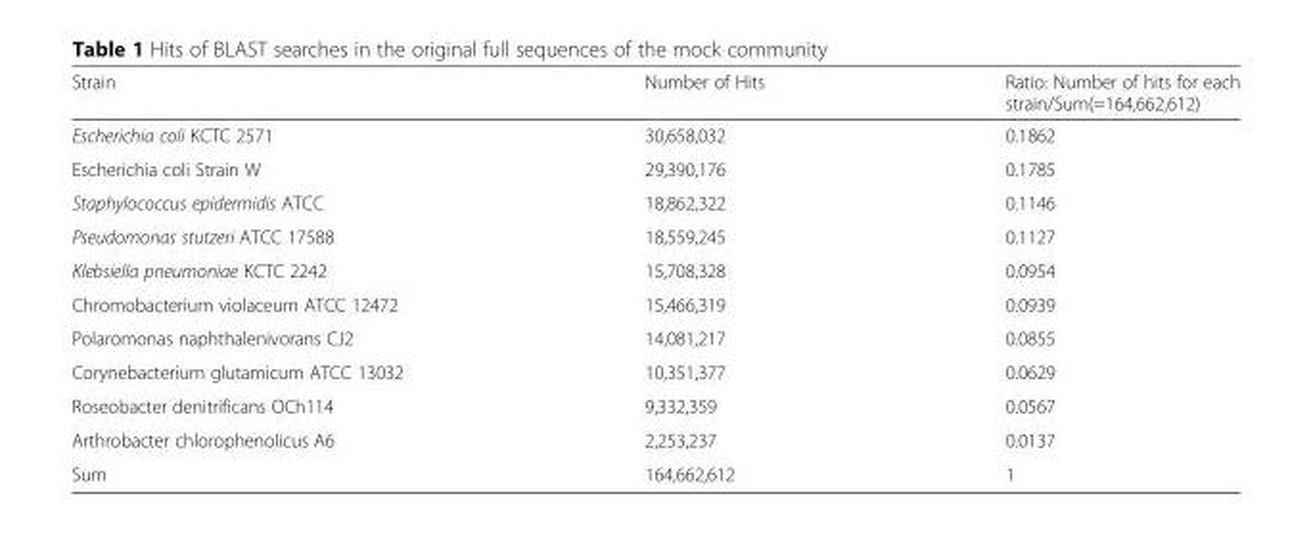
<table><thead><tr><td>Strain</td><td>Number of Hits</td><td>Ratio: Number of hits for each strain/Sum(=164,662,612)</td></tr></thead><tbody><tr><td>Escherichia coli KCTC 2571</td><td>30,658,032</td><td>0.1862</td></tr><tr><td>Escherichia coli Strain W</td><td>29,390,176</td><td>0.1785</td></tr><tr><td>Staphylococcus epidermidis ATCC</td><td>18,862,322</td><td>0.1146</td></tr><tr><td>Pseudomonas stutzeri ATCC 17588</td><td>18,559,245</td><td>0.1127</td></tr><tr><td>Klebsiella pneumoniae KCTC 2242</td><td>15,708,328</td><td>0.0954</td></tr><tr><td>Chromobacterium violaceum ATCC 12472</td><td>15,466,319</td><td>0.0939</td></tr><tr><td>Polaromonas naphthalenivorans CJ2</td><td>14,081,217</td><td>0.0855</td></tr><tr><td>Corynebacterium glutamicum ATCC 13032</td><td>10,351,377</td><td>0.0629</td></tr><tr><td>Roseobacter denitrificans OCh114</td><td>9,332,359</td><td>0.0567</td></tr><tr><td>Arthrobacter chlorophenolicus A6</td><td>2,253,237</td><td>0.0137</td></tr><tr><td>Sum</td><td>164,662,612</td><td>1</td></tr></tbody></table>